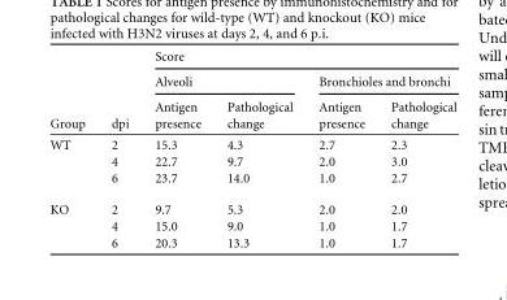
<table><thead><tr><td rowspan="3">Group</td><td rowspan="3">dpi</td><td colspan="4">Score</td></tr><tr><td colspan="2">Alveoli</td><td colspan="2">Bronchioles and bronchi</td></tr><tr><td>Antigen presence</td><td>Pathological change</td><td>Antigen presence</td><td>Pathological change</td></tr></thead><tbody><tr><td rowspan="3">WT</td><td>2</td><td>15.3</td><td>4.3</td><td>2.7</td><td>2.3</td></tr><tr><td>4</td><td>22.7</td><td>9.7</td><td>2.0</td><td>3.0</td></tr><tr><td>6</td><td>23.7</td><td>14.0</td><td>1.0</td><td>2.7</td></tr><tr><td rowspan="3">KO</td><td>2</td><td>9.7</td><td>5.3</td><td>2.0</td><td>2.0</td></tr><tr><td>4</td><td>15.0</td><td>9.0</td><td>1.0</td><td>1.7</td></tr><tr><td>6</td><td>20.3</td><td>13.3</td><td>1.0</td><td>1.7</td></tr></tbody></table>